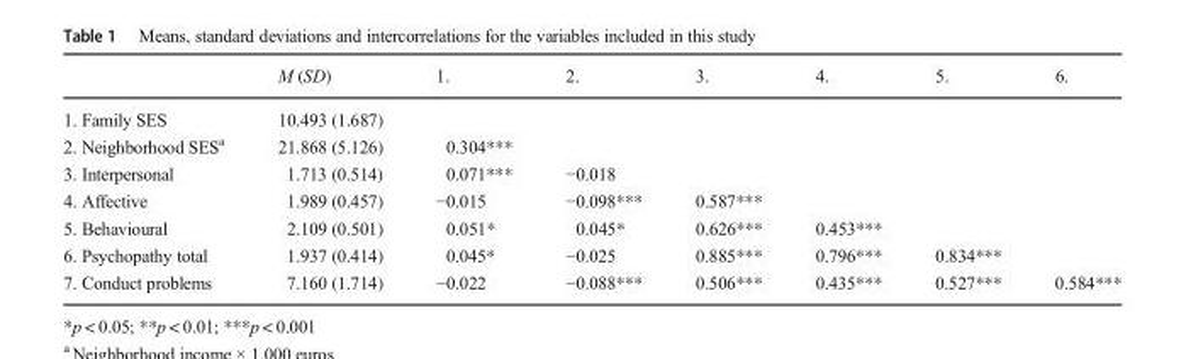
<table><thead><tr><td></td><td>M (SD)</td><td>1.</td><td>2.</td><td>3.</td><td>4.</td><td>5.</td><td>6.</td></tr></thead><tbody><tr><td>1. Family SES</td><td>10.493 (1.687)</td><td></td><td></td><td></td><td></td><td></td><td></td></tr><tr><td>2. Neighborhood SES<sup>a</sup></td><td>21.868 (5.126)</td><td>0.304***</td><td></td><td></td><td></td><td></td><td></td></tr><tr><td>3. Interpersonal</td><td>1.713 (0.514)</td><td>0.071***</td><td>−0.018</td><td></td><td></td><td></td><td></td></tr><tr><td>4. Affective</td><td>1.989 (0.457)</td><td>−0.015</td><td>−0.098***</td><td>0.587***</td><td></td><td></td><td></td></tr><tr><td>5. Behavioural</td><td>2.109 (0.501)</td><td>0.051*</td><td>0.045*</td><td>0.626***</td><td>0.453***</td><td></td><td></td></tr><tr><td>6. Psychopathy total</td><td>1.937 (0.414)</td><td>0.045*</td><td>−0.025</td><td>0.885***</td><td>0.796***</td><td>0.834***</td><td></td></tr><tr><td>7. Conduct problems</td><td>7.160 (1.714)</td><td>−0.022</td><td>−0.088***</td><td>0.506***</td><td>0.435***</td><td>0.527***</td><td>0.584***</td></tr></tbody></table>